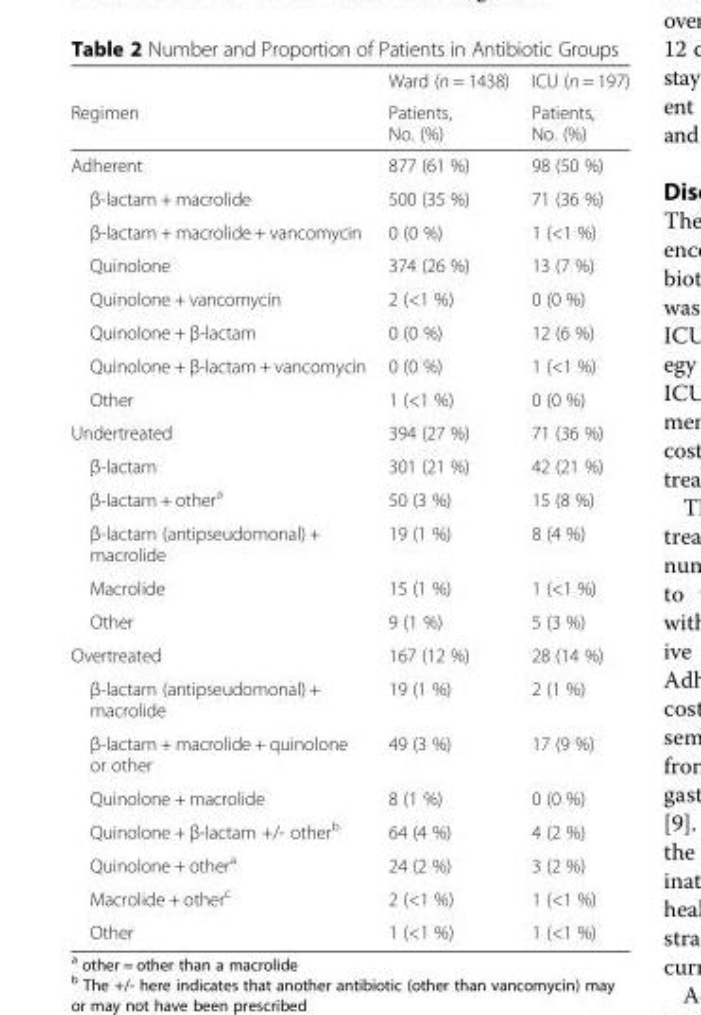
<table><thead><tr><td rowspan="2">Regimen</td><td rowspan="2">Ward (n = 1438) Patients, No. (%)</td><td rowspan="2">ICU (n = 197) Patients, No. (%)</td></tr><tr></tr></thead><tbody><tr><td>Adherent</td><td>877 (61 %)</td><td>98 (50 %)</td></tr><tr><td>β-lactam + macrolide</td><td>500 (35 %)</td><td>71 (36 %)</td></tr><tr><td>β-lactam + macrolide + vancomycin</td><td>0 (0 %)</td><td>1 (&lt;1 %)</td></tr><tr><td>Quinolone</td><td>374 (26 %)</td><td>13 (7 %)</td></tr><tr><td>Quinolone + vancomycin</td><td>2 (&lt;1 %)</td><td>0 (0 %)</td></tr><tr><td>Quinolone + β-lactam</td><td>0 (0 %)</td><td>12 (6 %)</td></tr><tr><td>Quinolone + β-lactam + vancomycin</td><td>0 (0 %)</td><td>1 (&lt;1 %)</td></tr><tr><td>Other</td><td>1 (&lt;1 %)</td><td>0 (0 %)</td></tr><tr><td>Undertreated</td><td>394 (27 %)</td><td>71 (36 %)</td></tr><tr><td>β-lactam</td><td>301 (21 %)</td><td>42 (21 %)</td></tr><tr><td>β-lactam + other<sup>a</sup></td><td>50 (3 %)</td><td>15 (8 %)</td></tr><tr><td>β-lactam (antipseudomonal) + macrolide</td><td>19 (1 %)</td><td>8 (4 %)</td></tr><tr><td>Macrolide</td><td>15 (1 %)</td><td>1 (&lt;1 %)</td></tr><tr><td>Other</td><td>9 (1 %)</td><td>5 (3 %)</td></tr><tr><td>Overtreated</td><td>167 (12 %)</td><td>28 (14 %)</td></tr><tr><td>β-lactam (antipseudomonal) + macrolide</td><td>19 (1 %)</td><td>2 (1 %)</td></tr><tr><td>β-lactam + macrolide + quinolone or other</td><td>49 (3 %)</td><td>17 (9 %)</td></tr><tr><td>Quinolone + macrolide</td><td>8 (1 %)</td><td>0 (0 %)</td></tr><tr><td>Quinolone + β-lactam +/- other<sup>b</sup></td><td>64 (4 %)</td><td>4 (2 %)</td></tr><tr><td>Quinolone + other<sup>a</sup></td><td>24 (2 %)</td><td>3 (2 %)</td></tr><tr><td>Macrolide + other<sup>c</sup></td><td>2 (&lt;1 %)</td><td>1 (&lt;1 %)</td></tr><tr><td>Other</td><td>1 (&lt;1 %)</td><td>1 (&lt;1 %)</td></tr></tbody></table>